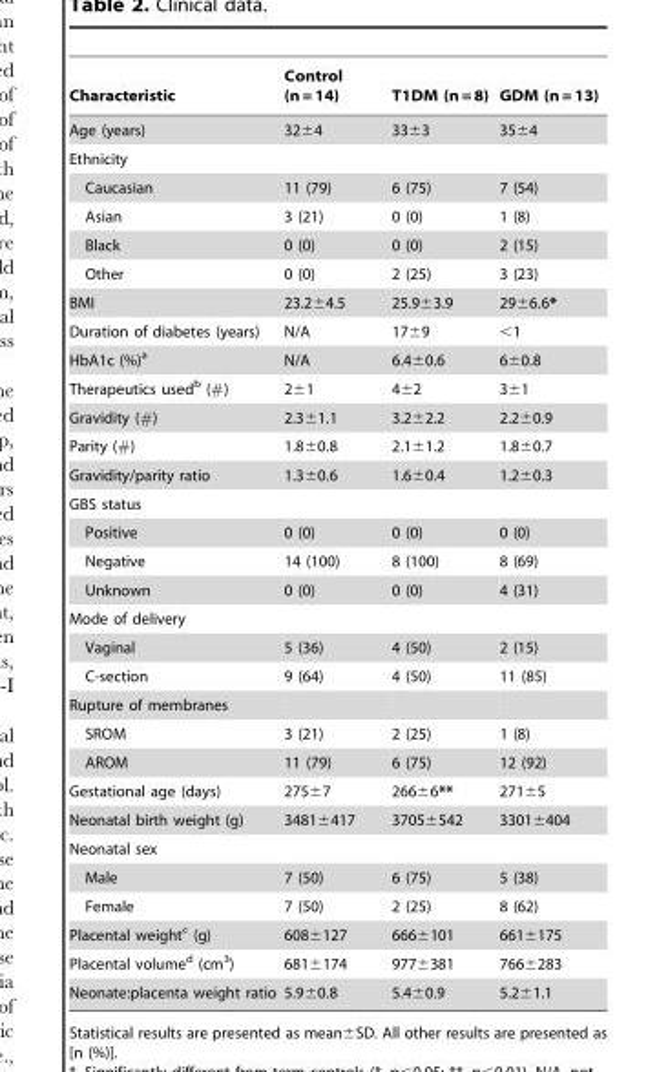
<table><thead><tr><td>Characteristic</td><td>Control (n = 14)</td><td>T1DM (n = 8)</td><td>GDM (n = 13)</td></tr></thead><tbody><tr><td>Age (years)</td><td>32±4</td><td>33±3</td><td>35±4</td></tr><tr><td colspan="4">Ethnicity</td></tr><tr><td>Caucasian</td><td>11 (79)</td><td>6 (75)</td><td>7 (54)</td></tr><tr><td>Asian</td><td>3 (21)</td><td>0 (0)</td><td>1 (8)</td></tr><tr><td>Black</td><td>0 (0)</td><td>0 (0)</td><td>2 (15)</td></tr><tr><td>Other</td><td>0 (0)</td><td>2 (25)</td><td>3 (23)</td></tr><tr><td>BMI</td><td>23.2±4.5</td><td>25.9±3.9</td><td>29±6.6*</td></tr><tr><td>Duration of diabetes (years)</td><td>N/A</td><td>17±9</td><td>&lt;1</td></tr><tr><td>HbA1c (%)<sup>a</sup></td><td>N/A</td><td>6.4±0.6</td><td>6±0.8</td></tr><tr><td>Therapeutics used<sup>b</sup> (#)</td><td>2±1</td><td>4±2</td><td>3±1</td></tr><tr><td>Gravidity (#)</td><td>2.3±1.1</td><td>3.2±2.2</td><td>2.2±0.9</td></tr><tr><td>Parity (#)</td><td>1.8±0.8</td><td>2.1±1.2</td><td>1.8±0.7</td></tr><tr><td>Gravidity/parity ratio</td><td>1.3±0.6</td><td>1.6±0.4</td><td>1.2±0.3</td></tr><tr><td colspan="4">GBS status</td></tr><tr><td>Positive</td><td>0 (0)</td><td>0 (0)</td><td>0 (0)</td></tr><tr><td>Negative</td><td>14 (100)</td><td>8 (100)</td><td>8 (69)</td></tr><tr><td>Unknown</td><td>0 (0)</td><td>0 (0)</td><td>4 (31)</td></tr><tr><td colspan="4">Mode of delivery</td></tr><tr><td>Vaginal</td><td>5 (36)</td><td>4 (50)</td><td>2 (15)</td></tr><tr><td>C-section</td><td>9 (64)</td><td>4 (50)</td><td>11 (85)</td></tr><tr><td colspan="4">Rupture of membranes</td></tr><tr><td>SROM</td><td>3 (21)</td><td>2 (25)</td><td>1 (8)</td></tr><tr><td>AROM</td><td>11 (79)</td><td>6 (75)</td><td>12 (92)</td></tr><tr><td>Gestational age (days)</td><td>275±7</td><td>266±6**</td><td>271±5</td></tr><tr><td>Neonatal birth weight (g)</td><td>3481±417</td><td>3705±542</td><td>3301±404</td></tr><tr><td colspan="4">Neonatal sex</td></tr><tr><td>Male</td><td>7 (50)</td><td>6 (75)</td><td>5 (38)</td></tr><tr><td>Female</td><td>7 (50)</td><td>2 (25)</td><td>8 (62)</td></tr><tr><td>Placental weight<sup>c</sup> (g)</td><td>608±127</td><td>666±101</td><td>661±175</td></tr><tr><td>Placental volume<sup>d</sup> (cm<sup>3</sup>)</td><td>681±174</td><td>977±381</td><td>766±283</td></tr><tr><td>Neonate:placenta weight ratio</td><td>5.9±0.8</td><td>5.4±0.9</td><td>5.2±1.1</td></tr></tbody></table>